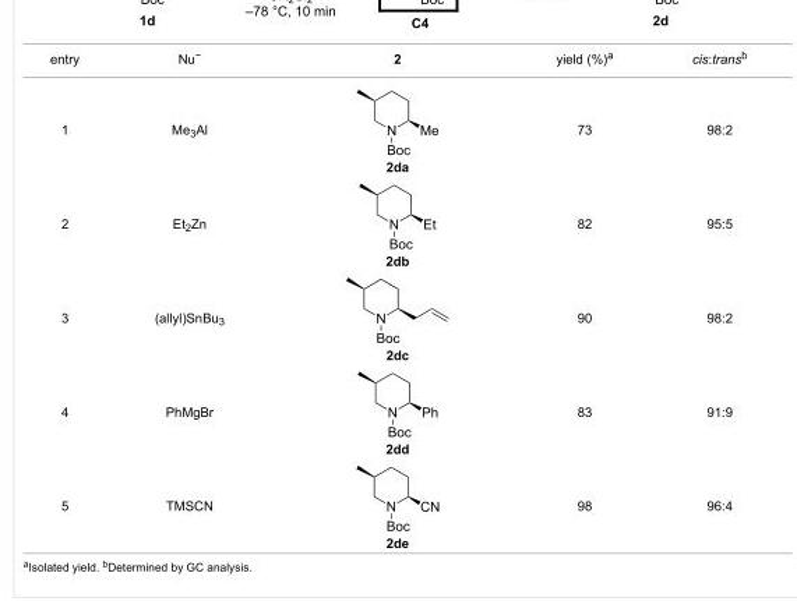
<table><tbody><tr><td>entry</td><td>Nu<sup>−</sup></td><td>2</td><td>yield (%)<sup>a</sup></td><td>cis:trans<sup>b</sup></td></tr><tr><td>1</td><td>Me<sub>3</sub>Al</td><td>2da</td><td>73</td><td>98:2</td></tr><tr><td>2</td><td>Et<sub>2</sub>Zn</td><td>2db</td><td>82</td><td>95:5</td></tr><tr><td>3</td><td>(allyl)SnBu<sub>3</sub></td><td>2dc</td><td>90</td><td>98:2</td></tr><tr><td>4</td><td>PhMgBr</td><td>2dd</td><td>83</td><td>91:9</td></tr><tr><td>5</td><td>TMSCN</td><td>2de</td><td>98</td><td>96:4</td></tr></tbody></table>